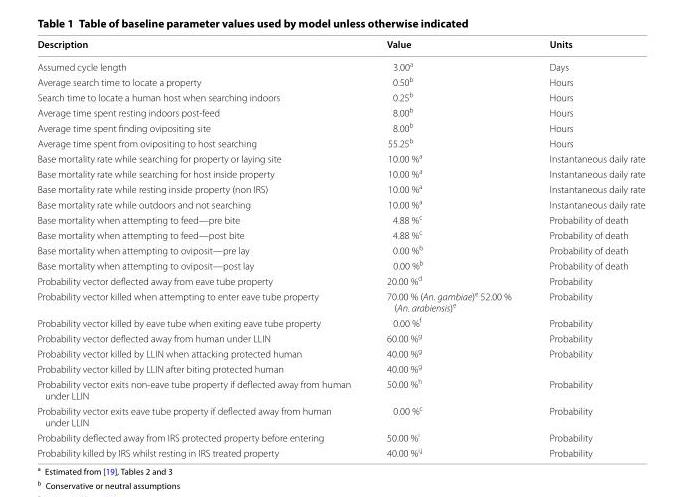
<table><thead><tr><td>Description</td><td>Value</td><td>Units</td></tr></thead><tbody><tr><td>Assumed cycle length</td><td>3.00<sup>a</sup></td><td>Days</td></tr><tr><td>Average search time to locate a property</td><td>0.50<sup>b</sup></td><td>Hours</td></tr><tr><td>Search time to locate a human host when searching indoors</td><td>0.25<sup>b</sup></td><td>Hours</td></tr><tr><td>Average time spent resting indoors post-feed</td><td>8.00<sup>b</sup></td><td>Hours</td></tr><tr><td>Average time spent finding ovipositing site</td><td>8.00<sup>b</sup></td><td>Hours</td></tr><tr><td>Average time spent from ovipositing to host searching</td><td>55.25<sup>b</sup></td><td>Hours</td></tr><tr><td>Base mortality rate while searching for property or laying site</td><td>10.00 %<sup>a</sup></td><td>Instantaneous daily rate</td></tr><tr><td>Base mortality rate while searching for host inside property</td><td>10.00 %<sup>a</sup></td><td>Instantaneous daily rate</td></tr><tr><td>Base mortality rate while resting inside property (non IRS)</td><td>10.00 %<sup>a</sup></td><td>Instantaneous daily rate</td></tr><tr><td>Base mortality rate while outdoors and not searching</td><td>10.00 %<sup>a</sup></td><td>Instantaneous daily rate</td></tr><tr><td>Base mortality when attempting to feed—pre bite</td><td>4.88 %<sup>c</sup></td><td>Probability of death</td></tr><tr><td>Base mortality when attempting to feed—post bite</td><td>4.88 %<sup>c</sup></td><td>Probability of death</td></tr><tr><td>Base mortality when attempting to oviposit—pre lay</td><td>0.00 %<sup>b</sup></td><td>Probability of death</td></tr><tr><td>Base mortality when attempting to oviposit—post lay</td><td>0.00 %<sup>b</sup></td><td>Probability of death</td></tr><tr><td>Probability vector deflected away from eave tube property</td><td>20.00 %<sup>d</sup></td><td>Probability</td></tr><tr><td>Probability vector killed when attempting to enter eave tube property</td><td>70.00 % (An. gambiae)<sup>e</sup> 52.00 % (An. arabiensis)<sup>e</sup></td><td>Probability</td></tr><tr><td>Probability vector killed by eave tube when exiting eave tube property</td><td>0.00 %<sup>f</sup></td><td>Probability</td></tr><tr><td>Probability vector deflected away from human under LLIN</td><td>60.00 %<sup>g</sup></td><td>Probability</td></tr><tr><td>Probability vector killed by LLIN when attacking protected human</td><td>40.00 %<sup>g</sup></td><td>Probability</td></tr><tr><td>Probability vector killed by LLIN after biting protected human</td><td>40.00 %<sup>g</sup></td><td></td></tr><tr><td>Probability vector exits non-eave tube property if deflected away from human under LLIN</td><td>50.00 %<sup>h</sup></td><td>Probability</td></tr><tr><td>Probability vector exits eave tube property if deflected away from human under LLIN</td><td>0.00 %<sup>c</sup></td><td>Probability</td></tr><tr><td>Probability deflected away from IRS protected property before entering</td><td>50.00 %<sup>i</sup></td><td>Probability</td></tr><tr><td>Probability killed by IRS whilst resting in IRS treated property</td><td>40.00 %<sup>i,j</sup></td><td>Probability</td></tr></tbody></table>